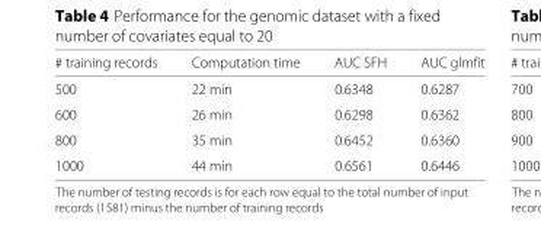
<table><thead><tr><td># training records</td><td>Computation time</td><td>AUC SFH</td><td>AUC glmfit</td></tr></thead><tbody><tr><td>500</td><td>22 min</td><td>0.6348</td><td>0.6287</td></tr><tr><td>600</td><td>26 min</td><td>0.6298</td><td>0.6362</td></tr><tr><td>800</td><td>35 min</td><td>0.6452</td><td>0.6360</td></tr><tr><td>1000</td><td>44 min</td><td>0.6561</td><td>0.6446</td></tr></tbody></table>